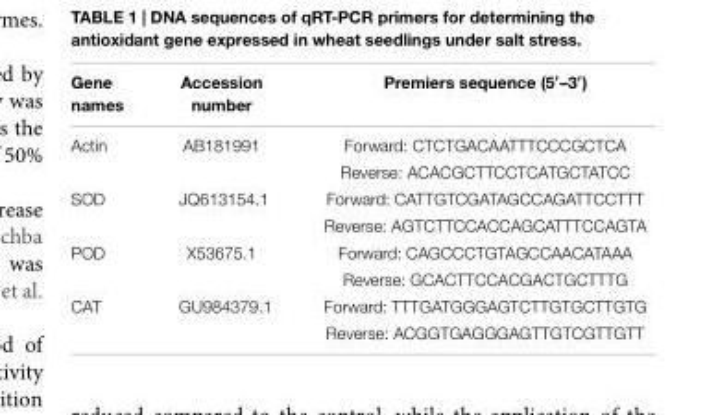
<table><thead><tr><td>Gene names</td><td>Accession number</td><td>Premiers sequence (5′–3′)</td></tr></thead><tbody><tr><td rowspan="2">Actin</td><td>AB181991</td><td>Forward: CTCTGACAATTTCCCGCTCA</td></tr><tr><td></td><td>Reverse: ACACGCTTCCTCATGCTATCC</td></tr><tr><td rowspan="2">SOD</td><td>JQ613154.1</td><td>Forward: CATTGTCGATAGCCAGATTCCTTT</td></tr><tr><td></td><td>Reverse: AGTCTTCCACCAGCATTTCCAGTA</td></tr><tr><td rowspan="2">POD</td><td>X53675.1</td><td>Forward: CAGCCCTGTAGCCAACATAAA</td></tr><tr><td></td><td>Reverse: GCACTTCCACGACTGCTTTG</td></tr><tr><td rowspan="2">CAT</td><td>GU984379.1</td><td>Forward: TTTGATGGGAGTCTTGTGCTTGTG</td></tr><tr><td></td><td>Reverse: ACGGTGAGGGAGTTGTCGTTGTT</td></tr></tbody></table>